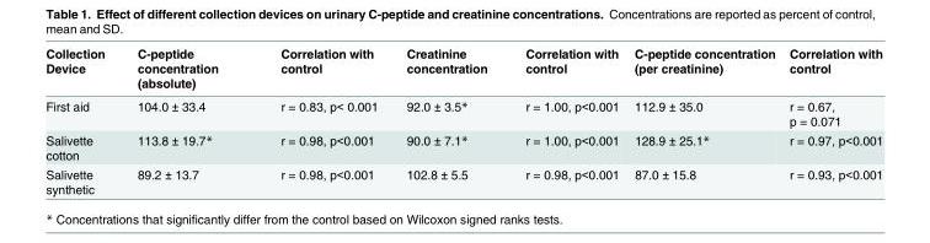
<table><thead><tr><td>Collection Device</td><td>C-peptide concentration (absolute)</td><td>Correlation with control</td><td>Creatinine concentration</td><td>Correlation with control</td><td>C-peptide concentration (per creatinine)</td><td>Correlation with control</td></tr></thead><tbody><tr><td>First aid</td><td>104.0 ± 33.4</td><td>r = 0.83, p&lt; 0.001</td><td>92.0 ± 3.5*</td><td>r = 1.00, p&lt;0.001</td><td>112.9 ± 35.0</td><td>r = 0.67, p = 0.071</td></tr><tr><td>Salivette cotton</td><td>113.8 ± 19.7*</td><td>r = 0.98, p&lt;0.001</td><td>90.0 ± 7.1*</td><td>r = 1.00, p&lt;0.001</td><td>128.9 ± 25.1*</td><td>r = 0.97, p&lt;0.001</td></tr><tr><td>Salivette synthetic</td><td>89.2 ± 13.7</td><td>r = 0.98, p&lt;0.001</td><td>102.8 ± 5.5</td><td>r = 0.98, p&lt;0.001</td><td>87.0 ± 15.8</td><td>r = 0.93, p&lt;0.001</td></tr></tbody></table>